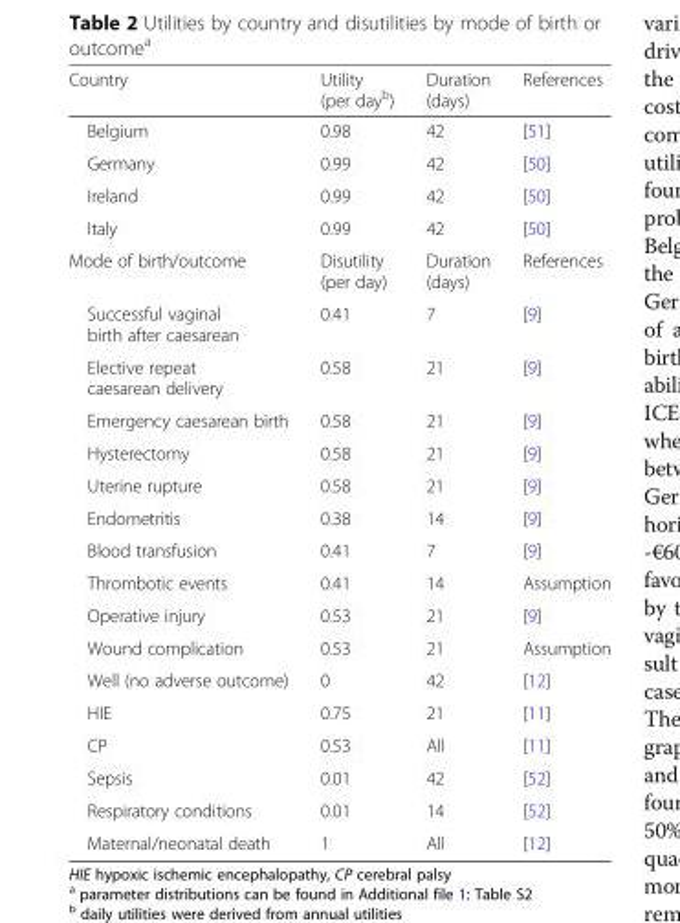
<table><thead><tr><td>Country</td><td>Utility (per day<sup>b</sup>)</td><td>Duration (days)</td><td>References</td></tr></thead><tbody><tr><td>Belgium</td><td>0.98</td><td>42</td><td>[51]</td></tr><tr><td>Germany</td><td>0.99</td><td>42</td><td>[50]</td></tr><tr><td>Ireland</td><td>0.99</td><td>42</td><td>[50]</td></tr><tr><td>Italy</td><td>0.99</td><td>42</td><td>[50]</td></tr><tr><td>Mode of birth/outcome</td><td>Disutility (per day)</td><td>Duration (days)</td><td>References</td></tr><tr><td>Successful vaginal birth after caesarean</td><td>0.41</td><td>7</td><td>[9]</td></tr><tr><td>Elective repeat caesarean delivery</td><td>0.58</td><td>21</td><td>[9]</td></tr><tr><td>Emergency caesarean birth</td><td>0.58</td><td>21</td><td>[9]</td></tr><tr><td>Hysterectomy</td><td>0.58</td><td>21</td><td>[9]</td></tr><tr><td>Uterine rupture</td><td>0.58</td><td>21</td><td>[9]</td></tr><tr><td>Endometritis</td><td>0.38</td><td>14</td><td>[9]</td></tr><tr><td>Blood transfusion</td><td>0.41</td><td>7</td><td>[9]</td></tr><tr><td>Thrombotic events</td><td>0.41</td><td>14</td><td>Assumption</td></tr><tr><td>Operative injury</td><td>0.53</td><td>21</td><td>[9]</td></tr><tr><td>Wound complication</td><td>0.53</td><td>21</td><td>Assumption</td></tr><tr><td>Well (no adverse outcome)</td><td>0</td><td>42</td><td>[12]</td></tr><tr><td>HIE</td><td>0.75</td><td>21</td><td>[11]</td></tr><tr><td>CP</td><td>0.53</td><td>All</td><td>[11]</td></tr><tr><td>Sepsis</td><td>0.01</td><td>42</td><td>[52]</td></tr><tr><td>Respiratory conditions</td><td>0.01</td><td>14</td><td>[52]</td></tr><tr><td>Maternal/neonatal death</td><td>1</td><td>All</td><td>[12]</td></tr></tbody></table>